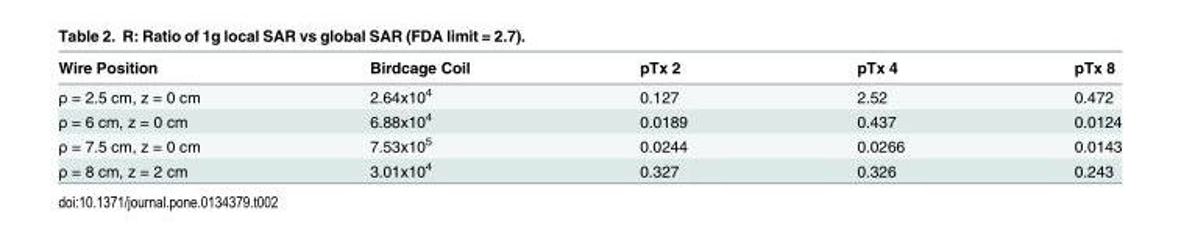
<table><thead><tr><td>Wire Position</td><td>Birdcage Coil</td><td>pTx 2</td><td>pTx 4</td><td>pTx 8</td></tr></thead><tbody><tr><td>ρ = 2.5 cm, z = 0 cm</td><td>2.64x10<sup>4</sup></td><td>0.127</td><td>2.52</td><td>0.472</td></tr><tr><td>ρ = 6 cm, z = 0 cm</td><td>6.88x10<sup>4</sup></td><td>0.0189</td><td>0.437</td><td>0.0124</td></tr><tr><td>ρ = 7.5 cm, z = 0 cm</td><td>7.53x10<sup>5</sup></td><td>0.0244</td><td>0.0266</td><td>0.0143</td></tr><tr><td>ρ = 8 cm, z = 2 cm</td><td>3.01x10<sup>4</sup></td><td>0.327</td><td>0.326</td><td>0.243</td></tr></tbody></table>